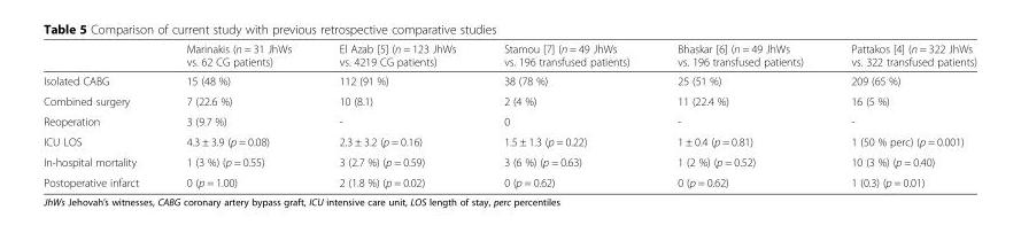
<table><thead><tr><td></td><td>Marinakis (n = 31 JhWs vs. 62 CG patients)</td><td>El Azab [5] (n = 123 JhWs vs. 4219 CG patients)</td><td>Stamou [7] (n = 49 JhWs vs. 196 transfused patients)</td><td>Bhaskar [6] (n = 49 JhWs vs. 196 transfused patients)</td><td>Pattakos [4] (n = 322 JhWs vs. 322 transfused patients)</td></tr></thead><tbody><tr><td>Isolated CABG</td><td>15 (48 %)</td><td>112 (91 %)</td><td>38 (78 %)</td><td>25 (51 %)</td><td>209 (65 %)</td></tr><tr><td>Combined surgery</td><td>7 (22.6 %)</td><td>10 (8.1)</td><td>2 (4 %)</td><td>11 (22.4 %)</td><td>16 (5 %)</td></tr><tr><td>Reoperation</td><td>3 (9.7 %)</td><td>-</td><td>0</td><td>-</td><td>-</td></tr><tr><td>ICU LOS</td><td>4.3 ± 3.9 (p = 0.08)</td><td>2.3 ± 3.2 (p = 0.16)</td><td>1.5 ± 1.3 (p = 0.22)</td><td>1 ± 0.4 (p = 0.81)</td><td>1 (50 % perc) (p = 0.001)</td></tr><tr><td>In-hospital mortality</td><td>1 (3 %) (p = 0.55)</td><td>3 (2.7 %) (p = 0.59)</td><td>3 (6 %) (p = 0.63)</td><td>1 (2 %) (p = 0.52)</td><td>10 (3 %) (p = 0.40)</td></tr><tr><td>Postoperative infarct</td><td>0 (p = 1.00)</td><td>2 (1.8 %) (p = 0.02)</td><td>0 (p = 0.62)</td><td>0 (p = 0.62)</td><td>1 (0.3) (p = 0.01)</td></tr></tbody></table>